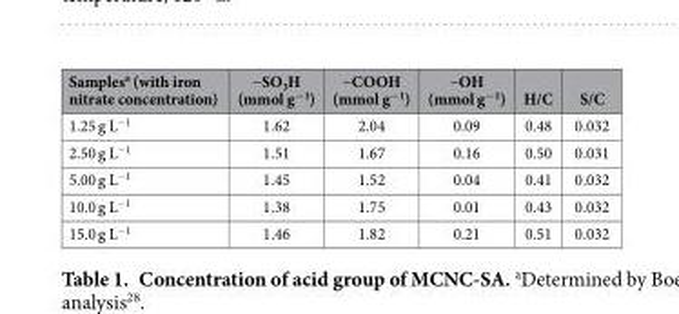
<table><thead><tr><td>Samples<sup>a</sup> (with iron nitrate concentration)</td><td>−SO<sub>3</sub>H (mmol g<sup>−1</sup>)</td><td>−COOH (mmol g<sup>−1</sup>)</td><td>−OH (mmol g<sup>−1</sup>)</td><td>H/C</td><td>S/C</td></tr></thead><tbody><tr><td>1.25 g L<sup>−1</sup></td><td>1.62</td><td>2.04</td><td>0.09</td><td>0.48</td><td>0.032</td></tr><tr><td>2.50 g L<sup>−1</sup></td><td>1.51</td><td>1.67</td><td>0.16</td><td>0.50</td><td>0.031</td></tr><tr><td>5.00 g L<sup>−1</sup></td><td>1.45</td><td>1.52</td><td>0.04</td><td>0.41</td><td>0.032</td></tr><tr><td>10.0 g L<sup>−1</sup></td><td>1.38</td><td>1.75</td><td>0.01</td><td>0.43</td><td>0.032</td></tr><tr><td>15.0 g L<sup>−1</sup></td><td>1.46</td><td>1.82</td><td>0.21</td><td>0.51</td><td>0.032</td></tr></tbody></table>